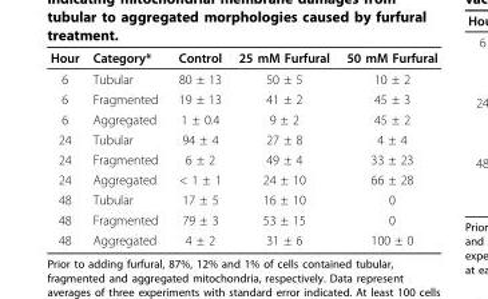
<table><thead><tr><td>Hour</td><td>Category*</td><td>Control</td><td>25 mM Furfural</td><td>50 mM Furfural</td></tr></thead><tbody><tr><td>6</td><td>Tubular</td><td>80 ± 13</td><td>50 ± 5</td><td>10 ± 2</td></tr><tr><td>6</td><td>Fragmented</td><td>19 ± 13</td><td>41 ± 2</td><td>45 ± 3</td></tr><tr><td>6</td><td>Aggregated</td><td>1 ± 0.4</td><td>9 ± 2</td><td>45 ± 2</td></tr><tr><td>24</td><td>Tubular</td><td>94 ± 4</td><td>27 ± 8</td><td>4 ± 4</td></tr><tr><td>24</td><td>Fragmented</td><td>6 ± 2</td><td>49 ± 4</td><td>33 ± 23</td></tr><tr><td>24</td><td>Aggregated</td><td>&lt; 1 ± 1</td><td>24 ± 10</td><td>66 ± 28</td></tr><tr><td>48</td><td>Tubular</td><td>17 ± 5</td><td>16 ± 10</td><td>0</td></tr><tr><td>48</td><td>Fragmented</td><td>79 ± 3</td><td>53 ± 15</td><td>0</td></tr><tr><td>48</td><td>Aggregated</td><td>4 ± 2</td><td>31 ± 6</td><td>100 ± 0</td></tr></tbody></table>